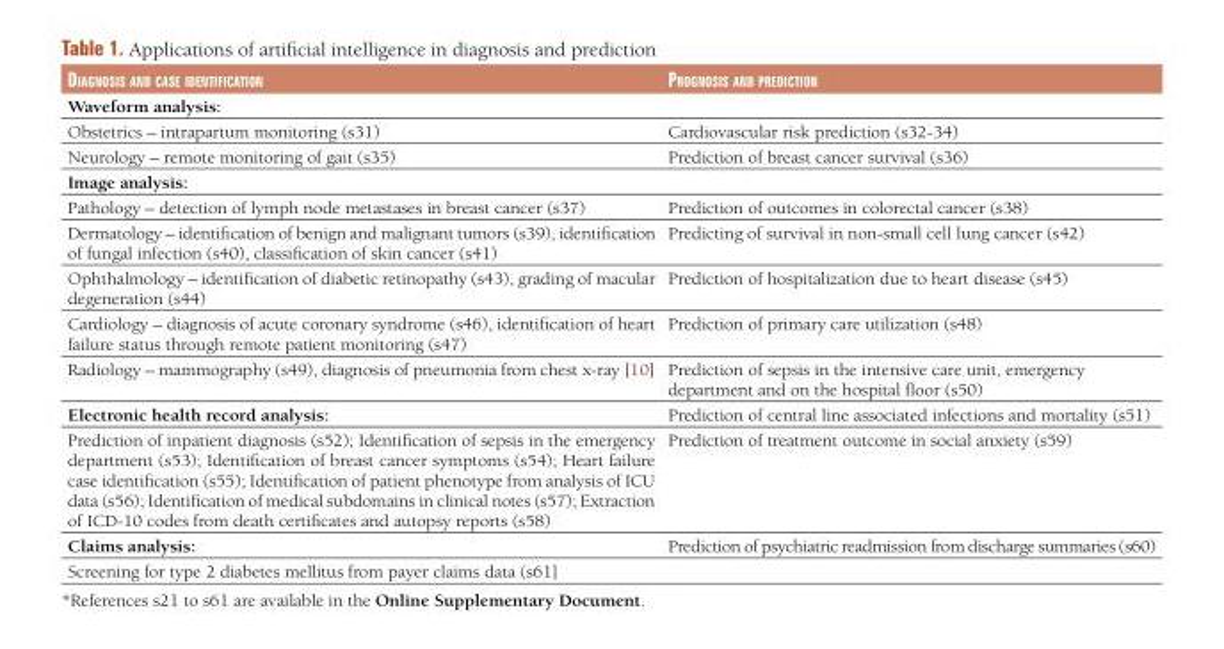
<table><thead><tr><td>Diagnosis anD case iDentification</td><td>Prognosis anD PreDiction</td></tr></thead><tbody><tr><td colspan="2">Waveform analysis:</td></tr><tr><td>Obstetrics – intrapartum monitoring (s31)</td><td>Cardiovascular risk prediction (s32-34)</td></tr><tr><td>Neurology – remote monitoring of gait (s35)</td><td>Prediction of breast cancer survival (s36)</td></tr><tr><td colspan="2">Image analysis:</td></tr><tr><td>Pathology – detection of lymph node metastases in breast cancer (s37)</td><td>Prediction of outcomes in colorectal cancer (s38)</td></tr><tr><td>Dermatology – identification of benign and malignant tumors (s39), identification of fungal infection (s40), classification of skin cancer (s41)</td><td>Predicting of survival in non-small cell lung cancer (s42)</td></tr><tr><td>Ophthalmology – identification of diabetic retinopathy (s43), grading of macular degeneration (s44)</td><td>Prediction of hospitalization due to heart disease (s45)</td></tr><tr><td>Cardiology – diagnosis of acute coronary syndrome (s46), identification of heart failure status through remote patient monitoring (s47)</td><td>Prediction of primary care utilization (s48)</td></tr><tr><td>Radiology – mammography (s49), diagnosis of pneumonia from chest x-ray [10]</td><td>Prediction of sepsis in the intensive care unit, emergency department and on the hospital floor (s50)</td></tr><tr><td>Electronic health record analysis:</td><td>Prediction of central line associated infections and mortality (s51)</td></tr><tr><td>Prediction of inpatient diagnosis (s52); Identification of sepsis in the emergency department (s53); Identification of breast cancer symptoms (s54); Heart failure case identification (s55); Identification of patient phenotype from analysis of ICU data (s56); Identification of medical subdomains in clinical notes (s57); Extraction of ICD-10 codes from death certificates and autopsy reports (s58)</td><td>Prediction of treatment outcome in social anxiety (s59)</td></tr><tr><td>Claims analysis:</td><td>Prediction of psychiatric readmission from discharge summaries (s60)</td></tr><tr><td>Screening for type 2 diabetes mellitus from payer claims data (s61]</td><td></td></tr></tbody></table>